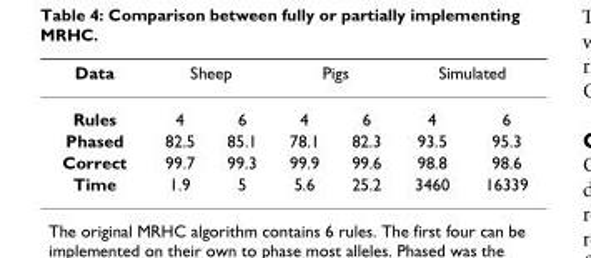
<table><thead><tr><td rowspan="2">Data Rules</td><td colspan="2">Sheep</td><td colspan="2">Pigs</td><td colspan="2">Simulated</td></tr><tr><td>4</td><td>6</td><td>4</td><td>6</td><td>4</td><td>6</td></tr></thead><tbody><tr><td>Phased</td><td>82.5</td><td>85.1</td><td>78.1</td><td>82.3</td><td>93.5</td><td>95.3</td></tr><tr><td>Correct</td><td>99.7</td><td>99.3</td><td>99.9</td><td>99.6</td><td>98.8</td><td>98.6</td></tr><tr><td>Time</td><td>1.9</td><td>5</td><td>5.6</td><td>25.2</td><td>3460</td><td>16339</td></tr></tbody></table>